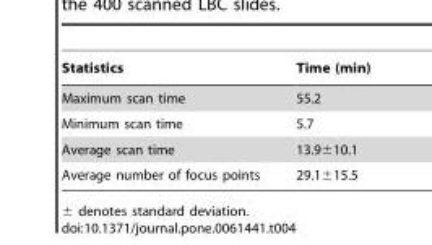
<table><thead><tr><td>Statistics</td><td>Time (min)</td></tr></thead><tbody><tr><td>Maximum scan time</td><td>55.2</td></tr><tr><td>Minimum scan time</td><td>5.7</td></tr><tr><td>Average scan time</td><td>13.9±10.1</td></tr><tr><td>Average number of focus points</td><td>29.1±15.5</td></tr></tbody></table>